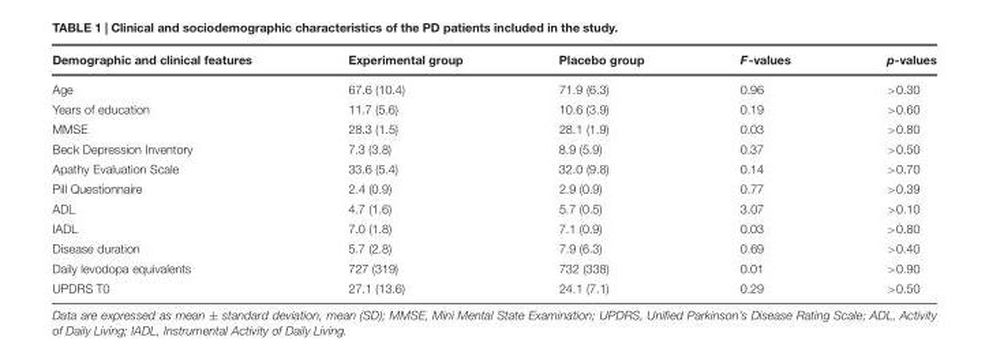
<table><thead><tr><td>Demographic and clinical features</td><td>Experimental group</td><td>Placebo group</td><td>F-values</td><td>p-values</td></tr></thead><tbody><tr><td>Age</td><td>67.6 (10.4)</td><td>71.9 (6.3)</td><td>0.96</td><td>&gt;0.30</td></tr><tr><td>Years of education</td><td>11.7 (5.6)</td><td>10.6 (3.9)</td><td>0.19</td><td>&gt;0.60</td></tr><tr><td>MMSE</td><td>28.3 (1.5)</td><td>28.1 (1.9)</td><td>0.03</td><td>&gt;0.80</td></tr><tr><td>Beck Depression Inventory</td><td>7.3 (3.8)</td><td>8.9 (5.9)</td><td>0.37</td><td>&gt;0.50</td></tr><tr><td>Apathy Evaluation Scale</td><td>33.6 (5.4)</td><td>32.0 (9.8)</td><td>0.14</td><td>&gt;0.70</td></tr><tr><td>Pill Questionnaire</td><td>2.4 (0.9)</td><td>2.9 (0.9)</td><td>0.77</td><td>&gt;0.39</td></tr><tr><td>ADL</td><td>4.7 (1.6)</td><td>5.7 (0.5)</td><td>3.07</td><td>&gt;0.10</td></tr><tr><td>IADL</td><td>7.0 (1.8)</td><td>7.1 (0.9)</td><td>0.03</td><td>&gt;0.80</td></tr><tr><td>Disease duration</td><td>5.7 (2.8)</td><td>7.9 (6.3)</td><td>0.69</td><td>&gt;0.40</td></tr><tr><td>Daily levodopa equivalents</td><td>727 (319)</td><td>732 (338)</td><td>0.01</td><td>&gt;0.90</td></tr><tr><td>UPDRS T0</td><td>27.1 (13.6)</td><td>24.1 (7.1)</td><td>0.29</td><td>&gt;0.50</td></tr></tbody></table>